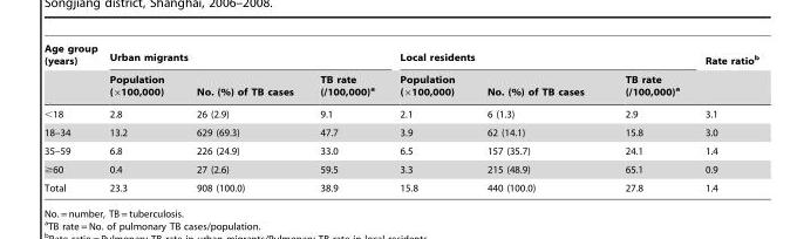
<table><thead><tr><td rowspan="2">Age group (years)</td><td colspan="3">Urban migrants</td><td colspan="3">Local residents</td><td rowspan="2">Rate ratio<sup>b</sup></td></tr><tr><td>Population (×100,000)</td><td>No. (%) of TB cases</td><td>TB rate (/100,000)<sup>a</sup></td><td>Population (×100,000)</td><td>No. (%) of TB cases</td><td>TB rate (/100,000)<sup>a</sup></td></tr></thead><tbody><tr><td>&lt;18</td><td>2.8</td><td>26 (2.9)</td><td>9.1</td><td>2.1</td><td>6 (1.3)</td><td>2.9</td><td>3.1</td></tr><tr><td>18–34</td><td>13.2</td><td>629 (69.3)</td><td>47.7</td><td>3.9</td><td>62 (14.1)</td><td>15.8</td><td>3.0</td></tr><tr><td>35–59</td><td>6.8</td><td>226 (24.9)</td><td>33.0</td><td>6.5</td><td>157 (35.7)</td><td>24.1</td><td>1.4</td></tr><tr><td>≥60</td><td>0.4</td><td>27 (2.6)</td><td>59.5</td><td>3.3</td><td>215 (48.9)</td><td>65.1</td><td>0.9</td></tr><tr><td>Total</td><td>23.3</td><td>908 (100.0)</td><td>38.9</td><td>15.8</td><td>440 (100.0)</td><td>27.8</td><td>1.4</td></tr></tbody></table>